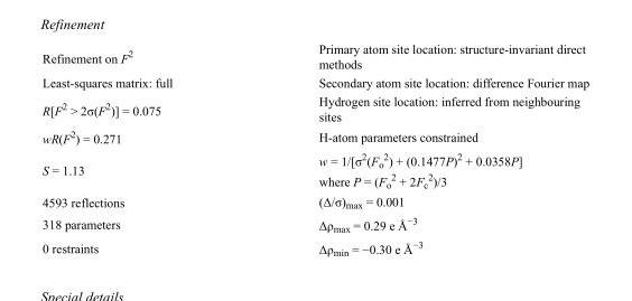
<table><tbody><tr><td>Refinement on F<sup>2</sup></td><td>Primary atom site location: structure-invariant direct methods</td></tr><tr><td>Least-squares matrix: full</td><td>Secondary atom site location: difference Fourier map</td></tr><tr><td>R[F<sup>2</sup> &gt; 2σ(F<sup>2</sup>)] = 0.075</td><td>Hydrogen site location: inferred from neighbouring sites</td></tr><tr><td>wR(F<sup>2</sup>) = 0.271</td><td>H-atom parameters constrained</td></tr><tr><td>S = 1.13</td><td>w = 1/[σ<sup>2</sup>(F<sub>o</sub> <sup>2</sup>) + (0.1477P)<sup>2</sup> + 0.0358P] where P = (F<sub>o</sub> <sup>2</sup> + 2F<sub>c</sub> <sup>2</sup>)/3</td></tr><tr><td>4593 reflections</td><td>(Δ/σ)<sub>max</sub> = 0.001</td></tr><tr><td>318 parameters</td><td>Δρ<sub>max</sub> = 0.29 e Å<sup>−3</sup></td></tr><tr><td>0 restraints</td><td>Δρ<sub>min</sub> = −0.30 e Å<sup>−3</sup></td></tr></tbody></table>